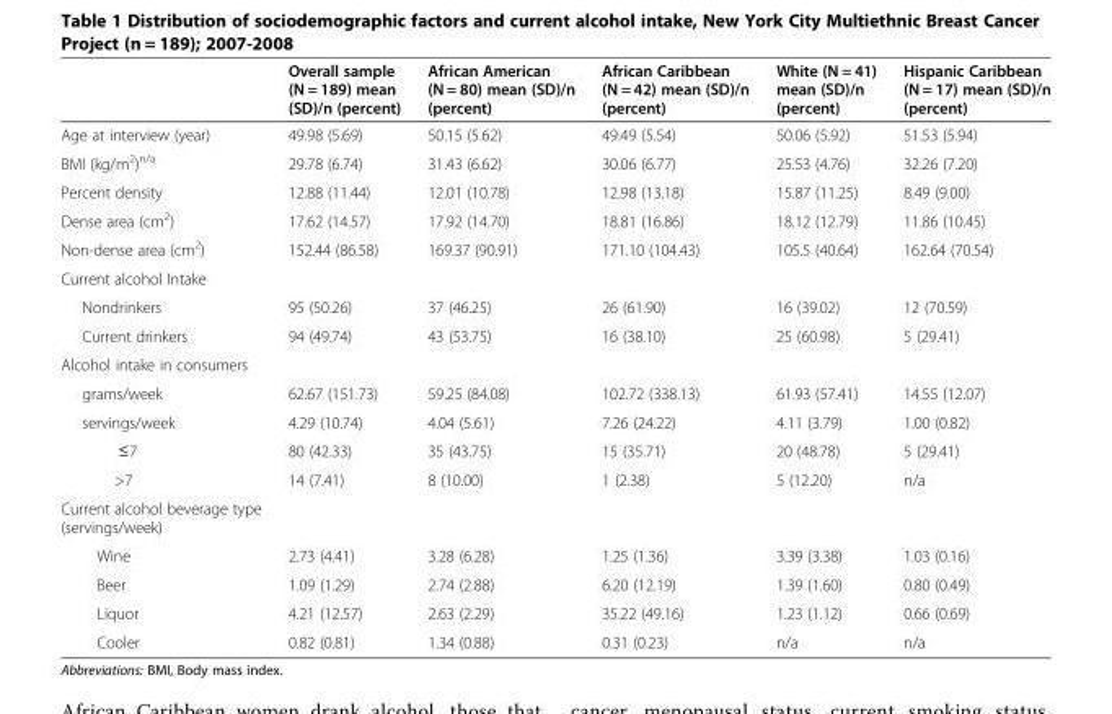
<table><thead><tr><td></td><td>Overall sample (N = 189) mean (SD)/n (percent)</td><td>African American (N = 80) mean (SD)/n (percent)</td><td>African Caribbean (N = 42) mean (SD)/n (percent)</td><td>White (N = 41) mean (SD)/n (percent)</td><td>Hispanic Caribbean (N = 17) mean (SD)/n (percent)</td></tr></thead><tbody><tr><td>Age at interview (year)</td><td>49.98 (5.69)</td><td>50.15 (5.62)</td><td>49.49 (5.54)</td><td>50.06 (5.92)</td><td>51.53 (5.94)</td></tr><tr><td>BMI (kg/m<sup>2</sup>)<sup>n/a</sup></td><td>29.78 (6.74)</td><td>31.43 (6.62)</td><td>30.06 (6.77)</td><td>25.53 (4.76)</td><td>32.26 (7.20)</td></tr><tr><td>Percent density</td><td>12.88 (11.44)</td><td>12.01 (10.78)</td><td>12.98 (13.18)</td><td>15.87 (11.25)</td><td>8.49 (9.00)</td></tr><tr><td>Dense area (cm<sup>2</sup>)</td><td>17.62 (14.57)</td><td>17.92 (14.70)</td><td>18.81 (16.86)</td><td>18.12 (12.79)</td><td>11.86 (10.45)</td></tr><tr><td>Non-dense area (cm<sup>2</sup>)</td><td>152.44 (86.58)</td><td>169.37 (90.91)</td><td>171.10 (104.43)</td><td>105.5 (40.64)</td><td>162.64 (70.54)</td></tr><tr><td colspan="6">Current alcohol Intake</td></tr><tr><td>Nondrinkers</td><td>95 (50.26)</td><td>37 (46.25)</td><td>26 (61.90)</td><td>16 (39.02)</td><td>12 (70.59)</td></tr><tr><td>Current drinkers</td><td>94 (49.74)</td><td>43 (53.75)</td><td>16 (38.10)</td><td>25 (60.98)</td><td>5 (29.41)</td></tr><tr><td colspan="6">Alcohol intake in consumers</td></tr><tr><td>grams/week</td><td>62.67 (151.73)</td><td>59.25 (84.08)</td><td>102.72 (338.13)</td><td>61.93 (57.41)</td><td>14.55 (12.07)</td></tr><tr><td>servings/week</td><td>4.29 (10.74)</td><td>4.04 (5.61)</td><td>7.26 (24.22)</td><td>4.11 (3.79)</td><td>1.00 (0.82)</td></tr><tr><td>≤7</td><td>80 (42.33)</td><td>35 (43.75)</td><td>15 (35.71)</td><td>20 (48.78)</td><td>5 (29.41)</td></tr><tr><td>&gt;7</td><td>14 (7.41)</td><td>8 (10.00)</td><td>1 (2.38)</td><td>5 (12.20)</td><td>n/a</td></tr><tr><td colspan="6">Current alcohol beverage type (servings/week)</td></tr><tr><td>Wine</td><td>2.73 (4.41)</td><td>3.28 (6.28)</td><td>1.25 (1.36)</td><td>3.39 (3.38)</td><td>1.03 (0.16)</td></tr><tr><td>Beer</td><td>1.09 (1.29)</td><td>2.74 (2.88)</td><td>6.20 (12.19)</td><td>1.39 (1.60)</td><td>0.80 (0.49)</td></tr><tr><td>Liquor</td><td>4.21 (12.57)</td><td>2.63 (2.29)</td><td>35.22 (49.16)</td><td>1.23 (1.12)</td><td>0.66 (0.69)</td></tr><tr><td>Cooler</td><td>0.82 (0.81)</td><td>1.34 (0.88)</td><td>0.31 (0.23)</td><td>n/a</td><td>n/a</td></tr></tbody></table>